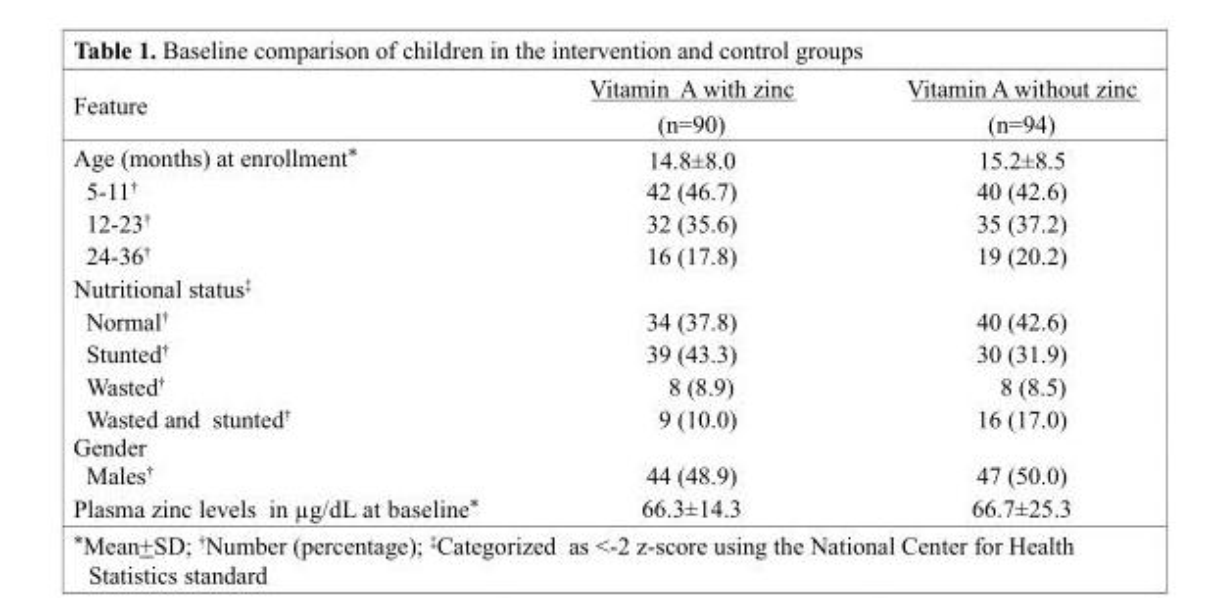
<table><thead><tr><td rowspan="2">Feature</td><td rowspan="2">Vitamin A with zinc (n=90)</td><td rowspan="2">Vitamin A without zinc (n=94)</td></tr><tr></tr></thead><tbody><tr><td>Age (months) at enrollment*</td><td>14.8±8.0</td><td>15.2±8.5</td></tr><tr><td>5-11†</td><td>42 (46.7)</td><td>40 (42.6)</td></tr><tr><td>12-23†</td><td>32 (35.6)</td><td>35 (37.2)</td></tr><tr><td>24-36†</td><td>16 (17.8)</td><td>19 (20.2)</td></tr><tr><td colspan="3">Nutritional status‡</td></tr><tr><td>Normal†</td><td>34 (37.8)</td><td>40 (42.6)</td></tr><tr><td>Stunted†</td><td>39 (43.3)</td><td>30 (31.9)</td></tr><tr><td>Wasted†</td><td>8 (8.9)</td><td>8 (8.5)</td></tr><tr><td>Wasted and stunted†</td><td>9 (10.0)</td><td>16 (17.0)</td></tr><tr><td colspan="3">Gender</td></tr><tr><td>Males†</td><td>44 (48.9)</td><td>47 (50.0)</td></tr><tr><td>Plasma zinc levels in µg/dL at baseline*</td><td>66.3±14.3</td><td>66.7±25.3</td></tr></tbody></table>